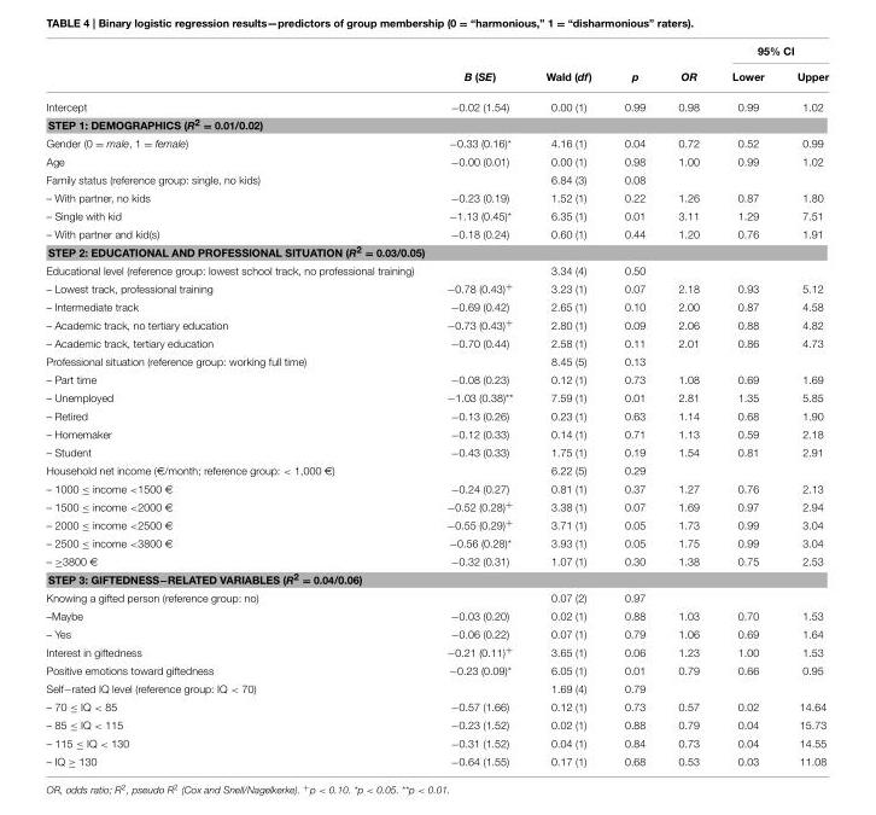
<table><thead><tr><td rowspan="2"></td><td rowspan="2">B (SE)</td><td rowspan="2">Wald (df)</td><td rowspan="2">p</td><td rowspan="2">OR</td><td colspan="2">95% CI</td></tr><tr><td>Lower</td><td>Upper</td></tr></thead><tbody><tr><td>Intercept</td><td>−0.02 (1.54)</td><td>0.00 (1)</td><td>0.99</td><td>0.98</td><td>0.99</td><td>1.02</td></tr><tr><td colspan="7">STEP 1: DEMOGRAPHICS (R<sup>2</sup> = 0.01/0.02)</td></tr><tr><td>Gender (0 = male, 1 = female)</td><td>−0.33 (0.16)*</td><td>4.16 (1)</td><td>0.04</td><td>0.72</td><td>0.52</td><td>0.99</td></tr><tr><td>Age</td><td>−0.00 (0.01)</td><td>0.00 (1)</td><td>0.98</td><td>1.00</td><td>0.99</td><td>1.02</td></tr><tr><td>Family status (reference group: single, no kids)</td><td></td><td>6.84 (3)</td><td>0.08</td><td></td><td></td><td></td></tr><tr><td>– With partner, no kids</td><td>−0.23 (0.19)</td><td>1.52 (1)</td><td>0.22</td><td>1.26</td><td>0.87</td><td>1.80</td></tr><tr><td>– Single with kid</td><td>−1.13 (0.45)*</td><td>6.35 (1)</td><td>0.01</td><td>3.11</td><td>1.29</td><td>7.51</td></tr><tr><td>– With partner and kid(s)</td><td>−0.18 (0.24)</td><td>0.60 (1)</td><td>0.44</td><td>1.20</td><td>0.76</td><td>1.91</td></tr><tr><td colspan="7">STEP 2: EDUCATIONAL AND PROFESSIONAL SITUATION (R<sup>2</sup> = 0.03/0.05)</td></tr><tr><td>Educational level (reference group: lowest school track, no professional training)</td><td></td><td>3.34 (4)</td><td>0.50</td><td></td><td></td><td></td></tr><tr><td>– Lowest track, professional training</td><td>−0.78 (0.43)<sup>+</sup></td><td>3.23 (1)</td><td>0.07</td><td>2.18</td><td>0.93</td><td>5.12</td></tr><tr><td>– Intermediate track</td><td>−0.69 (0.42)</td><td>2.65 (1)</td><td>0.10</td><td>2.00</td><td>0.87</td><td>4.58</td></tr><tr><td>– Academic track, no tertiary education</td><td>−0.73 (0.43)<sup>+</sup></td><td>2.80 (1)</td><td>0.09</td><td>2.06</td><td>0.88</td><td>4.82</td></tr><tr><td>– Academic track, tertiary education</td><td>−0.70 (0.44)</td><td>2.58 (1)</td><td>0.11</td><td>2.01</td><td>0.86</td><td>4.73</td></tr><tr><td>Professional situation (reference group: working full time)</td><td></td><td>8.45 (5)</td><td>0.13</td><td></td><td></td><td></td></tr><tr><td>– Part time</td><td>−0.08 (0.23)</td><td>0.12 (1)</td><td>0.73</td><td>1.08</td><td>0.69</td><td>1.69</td></tr><tr><td>– Unemployed</td><td>−1.03 (0.38)**</td><td>7.59 (1)</td><td>0.01</td><td>2.81</td><td>1.35</td><td>5.85</td></tr><tr><td>– Retired</td><td>−0.13 (0.26)</td><td>0.23 (1)</td><td>0.63</td><td>1.14</td><td>0.68</td><td>1.90</td></tr><tr><td>– Homemaker</td><td>−0.12 (0.33)</td><td>0.14 (1)</td><td>0.71</td><td>1.13</td><td>0.59</td><td>2.18</td></tr><tr><td>– Student</td><td>−0.43 (0.33)</td><td>1.75 (1)</td><td>0.19</td><td>1.54</td><td>0.81</td><td>2.91</td></tr><tr><td>Household net income (€/month; reference group: &lt; 1,000 €)</td><td></td><td>6.22 (5)</td><td>0.29</td><td></td><td></td><td></td></tr><tr><td>– 1000 ≤ income &lt;1500 €</td><td>−0.24 (0.27)</td><td>0.81 (1)</td><td>0.37</td><td>1.27</td><td>0.76</td><td>2.13</td></tr><tr><td>– 1500 ≤ income &lt;2000 €</td><td>−0.52 (0.28)<sup>+</sup></td><td>3.38 (1)</td><td>0.07</td><td>1.69</td><td>0.97</td><td>2.94</td></tr><tr><td>– 2000 ≤ income &lt;2500 €</td><td>−0.55 (0.29)<sup>+</sup></td><td>3.71 (1)</td><td>0.05</td><td>1.73</td><td>0.99</td><td>3.04</td></tr><tr><td>– 2500 ≤ income &lt;3800 €</td><td>−0.56 (0.28)*</td><td>3.93 (1)</td><td>0.05</td><td>1.75</td><td>0.99</td><td>3.04</td></tr><tr><td>– ≥3800 €</td><td>−0.32 (0.31)</td><td>1.07 (1)</td><td>0.30</td><td>1.38</td><td>0.75</td><td>2.53</td></tr><tr><td colspan="7">STEP 3: GIFTEDNESS−RELATED VARIABLES (R<sup>2</sup> = 0.04/0.06)</td></tr><tr><td>Knowing a gifted person (reference group: no)</td><td></td><td>0.07 (2)</td><td>0.97</td><td></td><td></td><td></td></tr><tr><td>–Maybe</td><td>−0.03 (0.20)</td><td>0.02 (1)</td><td>0.88</td><td>1.03</td><td>0.70</td><td>1.53</td></tr><tr><td>– Yes</td><td>−0.06 (0.22)</td><td>0.07 (1)</td><td>0.79</td><td>1.06</td><td>0.69</td><td>1.64</td></tr><tr><td>Interest in giftedness</td><td>−0.21 (0.11)<sup>+</sup></td><td>3.65 (1)</td><td>0.06</td><td>1.23</td><td>1.00</td><td>1.53</td></tr><tr><td>Positive emotions toward giftedness</td><td>−0.23 (0.09)*</td><td>6.05 (1)</td><td>0.01</td><td>0.79</td><td>0.66</td><td>0.95</td></tr><tr><td>Self−rated IQ level (reference group: IQ &lt; 70)</td><td></td><td>1.69 (4)</td><td>0.79</td><td></td><td></td><td></td></tr><tr><td>– 70 ≤ IQ &lt; 85</td><td>−0.57 (1.66)</td><td>0.12 (1)</td><td>0.73</td><td>0.57</td><td>0.02</td><td>14.64</td></tr><tr><td>– 85 ≤ IQ &lt; 115</td><td>−0.23 (1.52)</td><td>0.02 (1)</td><td>0.88</td><td>0.79</td><td>0.04</td><td>15.73</td></tr><tr><td>– 115 ≤ IQ &lt; 130</td><td>−0.31 (1.52)</td><td>0.04 (1)</td><td>0.84</td><td>0.73</td><td>0.04</td><td>14.55</td></tr><tr><td>– IQ ≥ 130</td><td>−0.64 (1.55)</td><td>0.17 (1)</td><td>0.68</td><td>0.53</td><td>0.03</td><td>11.08</td></tr></tbody></table>